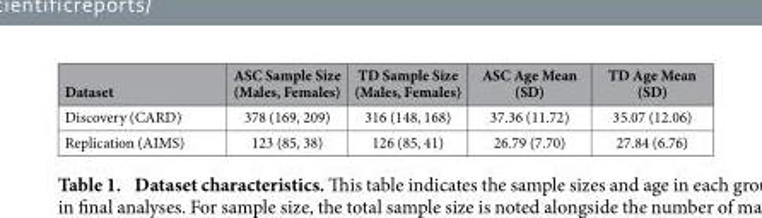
<table><thead><tr><td>Dataset</td><td>ASC Sample Size (Males, Females)</td><td>TD Sample Size (Males, Females)</td><td>ASC Age Mean (SD)</td><td>TD Age Mean (SD)</td></tr></thead><tbody><tr><td>Discovery (CARD)</td><td>378 (169, 209)</td><td>316 (148, 168)</td><td>37.36 (11.72)</td><td>35.07 (12.06)</td></tr><tr><td>Replication (AIMS)</td><td>123 (85, 38)</td><td>126 (85, 41)</td><td>26.79 (7.70)</td><td>27.84 (6.76)</td></tr></tbody></table>